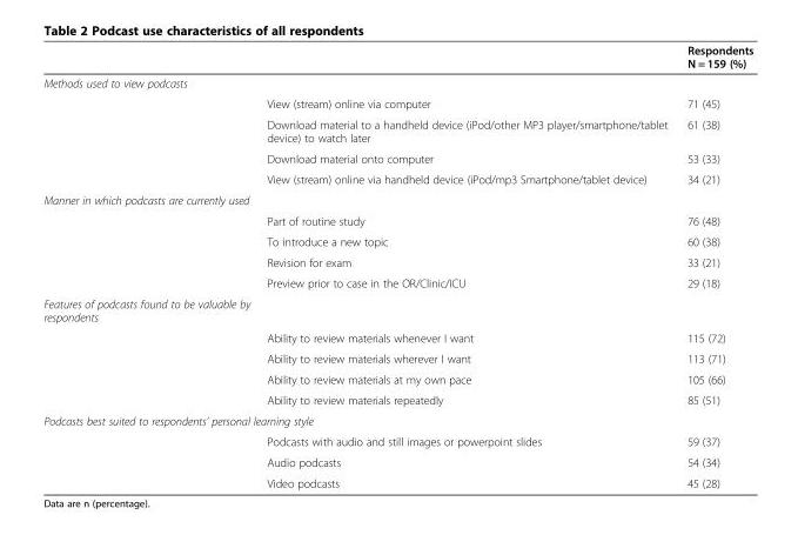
<table><thead><tr><td></td><td></td><td>Respondents N = 159 (%)</td></tr></thead><tbody><tr><td colspan="3">Methods used to view podcasts</td></tr><tr><td rowspan="4"></td><td>View (stream) online via computer</td><td>71 (45)</td></tr><tr><td>Download material to a handheld device (iPod/other MP3 player/smartphone/tablet device) to watch later</td><td>61 (38)</td></tr><tr><td>Download material onto computer</td><td>53 (33)</td></tr><tr><td>View (stream) online via handheld device (iPod/mp3 Smartphone/tablet device)</td><td>34 (21)</td></tr><tr><td colspan="3">Manner in which podcasts are currently used</td></tr><tr><td rowspan="4"></td><td>Part of routine study</td><td>76 (48)</td></tr><tr><td>To introduce a new topic</td><td>60 (38)</td></tr><tr><td>Revision for exam</td><td>33 (21)</td></tr><tr><td>Preview prior to case in the OR/Clinic/ICU</td><td>29 (18)</td></tr><tr><td colspan="3">Features of podcasts found to be valuable by respondents</td></tr><tr><td rowspan="4"></td><td>Ability to review materials whenever I want</td><td>115 (72)</td></tr><tr><td>Ability to review materials wherever I want</td><td>113 (71)</td></tr><tr><td>Ability to review materials at my own pace</td><td>105 (66)</td></tr><tr><td>Ability to review materials repeatedly</td><td>85 (51)</td></tr><tr><td colspan="3">Podcasts best suited to respondents’ personal learning style</td></tr><tr><td rowspan="2"></td><td>Podcasts with audio and still images or powerpoint slides</td><td>59 (37)</td></tr><tr><td>Audio podcasts</td><td>54 (34)</td></tr><tr><td></td><td>Video podcasts</td><td>45 (28)</td></tr></tbody></table>